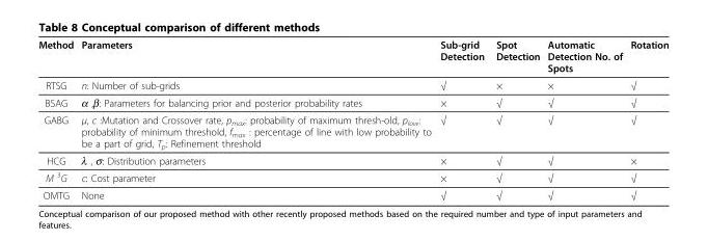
<table><thead><tr><td>Method</td><td>Parameters</td><td>Sub-grid Detection</td><td>Spot Detection</td><td>Automatic Detection No. of Spots</td><td>Rotation</td></tr></thead><tbody><tr><td>RTSG</td><td>n: Number of sub-grids</td><td>√</td><td>×</td><td>×</td><td>√</td></tr><tr><td>BSAG</td><td>α ,β: Parameters for balancing prior and posterior probability rates</td><td>×</td><td>√</td><td>√</td><td>√</td></tr><tr><td>GABG</td><td>μ, c :Mutation and Crossover rate, p<sub>max</sub>: probability of maximum thresh-old, p<sub>low</sub>: probability of minimum threshold, f<sub>max</sub> : percentage of line with low probability to be a part of grid, T<sub>p</sub>: Refinement threshold</td><td>√</td><td>√</td><td>√</td><td>√</td></tr><tr><td>HCG</td><td>λ , σ: Distribution parameters</td><td>×</td><td>√</td><td>√</td><td>×</td></tr><tr><td>M <sup>3</sup>G</td><td>c: Cost parameter</td><td>×</td><td>√</td><td>√</td><td>√</td></tr><tr><td>OMTG</td><td>None</td><td>√</td><td>√</td><td>√</td><td>√</td></tr></tbody></table>